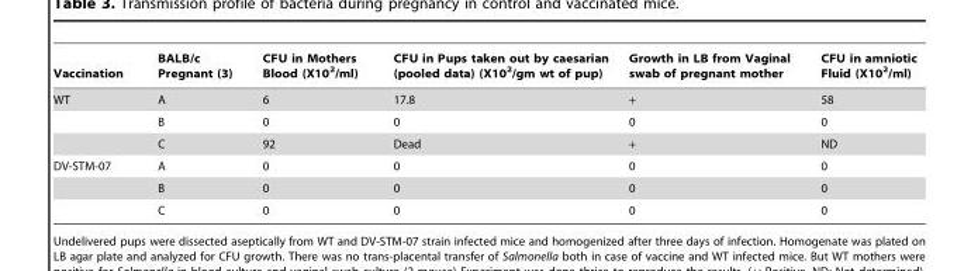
<table><thead><tr><td>Vaccination</td><td>BALB/c Pregnant (3)</td><td>CFU in Mothers Blood (X10<sup>2</sup>/ml)</td><td>CFU in Pups taken out by caesarian (pooled data) (X10<sup>2</sup>/gm wt of pup)</td><td>Growth in LB from Vaginal swab of pregnant mother</td><td>CFU in amniotic Fluid (X10<sup>2</sup>/ml)</td></tr></thead><tbody><tr><td rowspan="3">WT</td><td>A</td><td>6</td><td>17.8</td><td>+</td><td>58</td></tr><tr><td>B</td><td>0</td><td>0</td><td>0</td><td>0</td></tr><tr><td>C</td><td>92</td><td>Dead</td><td>+</td><td>ND</td></tr><tr><td rowspan="3">DV-STM-07</td><td>A</td><td>0</td><td>0</td><td>0</td><td>0</td></tr><tr><td>B</td><td>0</td><td>0</td><td>0</td><td>0</td></tr><tr><td>C</td><td>0</td><td>0</td><td>0</td><td>0</td></tr></tbody></table>